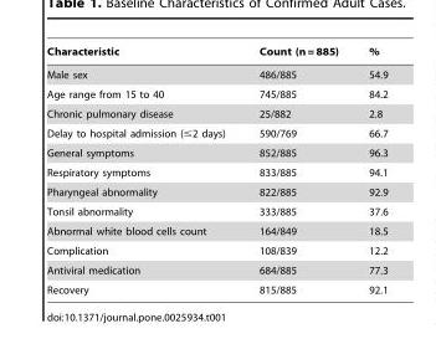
<table><thead><tr><td>Characteristic</td><td>Count (n = 885)</td><td>%</td></tr></thead><tbody><tr><td>Male sex</td><td>486/885</td><td>54.9</td></tr><tr><td>Age range from 15 to 40</td><td>745/885</td><td>84.2</td></tr><tr><td>Chronic pulmonary disease</td><td>25/882</td><td>2.8</td></tr><tr><td>Delay to hospital admission (≤2 days)</td><td>590/769</td><td>66.7</td></tr><tr><td>General symptoms</td><td>852/885</td><td>96.3</td></tr><tr><td>Respiratory symptoms</td><td>833/885</td><td>94.1</td></tr><tr><td>Pharyngeal abnormality</td><td>822/885</td><td>92.9</td></tr><tr><td>Tonsil abnormality</td><td>333/885</td><td>37.6</td></tr><tr><td>Abnormal white blood cells count</td><td>164/849</td><td>18.5</td></tr><tr><td>Complication</td><td>108/839</td><td>12.2</td></tr><tr><td>Antiviral medication</td><td>684/885</td><td>77.3</td></tr><tr><td>Recovery</td><td>815/885</td><td>92.1</td></tr></tbody></table>